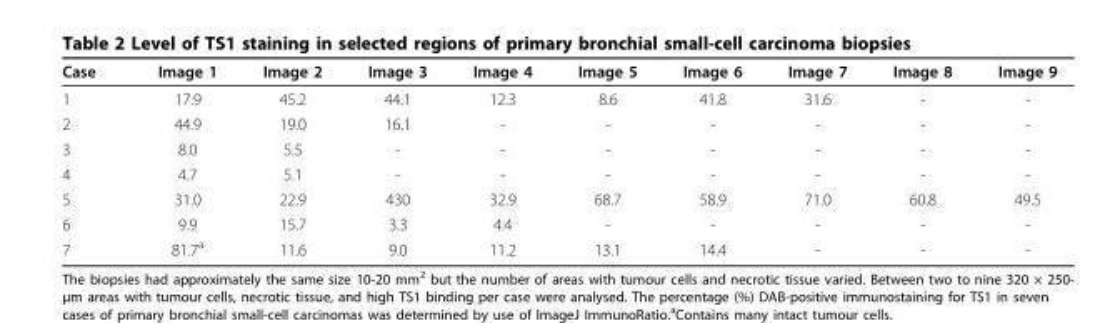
<table><thead><tr><td>Case</td><td>Image 1</td><td>Image 2</td><td>Image 3</td><td>Image 4</td><td>Image 5</td><td>Image 6</td><td>Image 7</td><td>Image 8</td><td>Image 9</td></tr></thead><tbody><tr><td>1</td><td>17.9</td><td>45.2</td><td>44.1</td><td>12.3</td><td>8.6</td><td>41.8</td><td>31.6</td><td>-</td><td>-</td></tr><tr><td>2</td><td>44.9</td><td>19.0</td><td>16.1</td><td>-</td><td>-</td><td>-</td><td>-</td><td>-</td><td>-</td></tr><tr><td>3</td><td>8.0</td><td>5.5</td><td>-</td><td>-</td><td>-</td><td>-</td><td>-</td><td>-</td><td>-</td></tr><tr><td>4</td><td>4.7</td><td>5.1</td><td>-</td><td>-</td><td>-</td><td>-</td><td>-</td><td>-</td><td>-</td></tr><tr><td>5</td><td>31.0</td><td>22.9</td><td>430</td><td>32.9</td><td>68.7</td><td>58.9</td><td>71.0</td><td>60.8</td><td>49.5</td></tr><tr><td>6</td><td>9.9</td><td>15.7</td><td>3.3</td><td>4.4</td><td>-</td><td>-</td><td>-</td><td>-</td><td>-</td></tr><tr><td>7</td><td>81.7<sup>a</sup></td><td>11.6</td><td>9.0</td><td>11.2</td><td>13.1</td><td>14.4</td><td>-</td><td>-</td><td>-</td></tr></tbody></table>